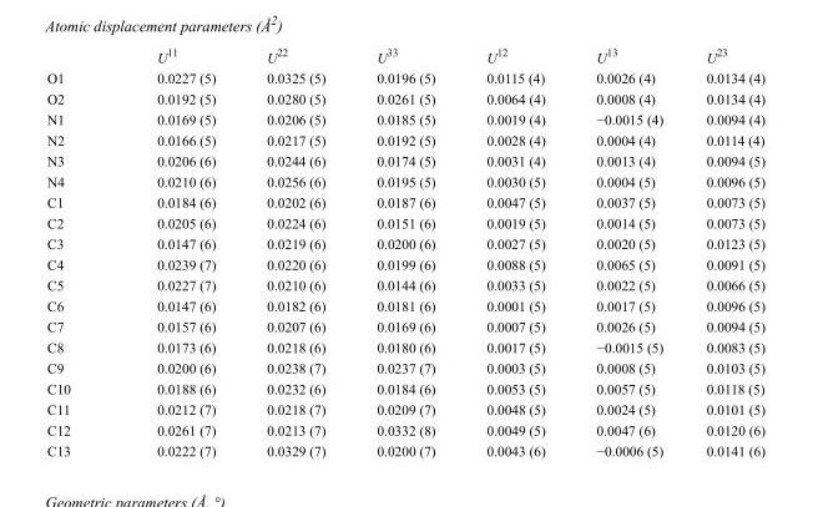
<table><thead><tr><td></td><td>U<sup>11</sup></td><td>U<sup>22</sup></td><td>U<sup>33</sup></td><td>U<sup>12</sup></td><td>U<sup>13</sup></td><td>U<sup>23</sup></td></tr></thead><tbody><tr><td>O1</td><td>0.0227 (5)</td><td>0.0325 (5)</td><td>0.0196 (5)</td><td>0.0115 (4)</td><td>0.0026 (4)</td><td>0.0134 (4)</td></tr><tr><td>O2</td><td>0.0192 (5)</td><td>0.0280 (5)</td><td>0.0261 (5)</td><td>0.0064 (4)</td><td>0.0008 (4)</td><td>0.0134 (4)</td></tr><tr><td>N1</td><td>0.0169 (5)</td><td>0.0206 (5)</td><td>0.0185 (5)</td><td>0.0019 (4)</td><td>−0.0015 (4)</td><td>0.0094 (4)</td></tr><tr><td>N2</td><td>0.0166 (5)</td><td>0.0217 (5)</td><td>0.0192 (5)</td><td>0.0028 (4)</td><td>0.0004 (4)</td><td>0.0114 (4)</td></tr><tr><td>N3</td><td>0.0206 (6)</td><td>0.0244 (6)</td><td>0.0174 (5)</td><td>0.0031 (4)</td><td>0.0013 (4)</td><td>0.0094 (5)</td></tr><tr><td>N4</td><td>0.0210 (6)</td><td>0.0256 (6)</td><td>0.0195 (5)</td><td>0.0030 (5)</td><td>0.0004 (5)</td><td>0.0096 (5)</td></tr><tr><td>C1</td><td>0.0184 (6)</td><td>0.0202 (6)</td><td>0.0187 (6)</td><td>0.0047 (5)</td><td>0.0037 (5)</td><td>0.0073 (5)</td></tr><tr><td>C2</td><td>0.0205 (6)</td><td>0.0224 (6)</td><td>0.0151 (6)</td><td>0.0019 (5)</td><td>0.0014 (5)</td><td>0.0073 (5)</td></tr><tr><td>C3</td><td>0.0147 (6)</td><td>0.0219 (6)</td><td>0.0200 (6)</td><td>0.0027 (5)</td><td>0.0020 (5)</td><td>0.0123 (5)</td></tr><tr><td>C4</td><td>0.0239 (7)</td><td>0.0220 (6)</td><td>0.0199 (6)</td><td>0.0088 (5)</td><td>0.0065 (5)</td><td>0.0091 (5)</td></tr><tr><td>C5</td><td>0.0227 (7)</td><td>0.0210 (6)</td><td>0.0144 (6)</td><td>0.0033 (5)</td><td>0.0022 (5)</td><td>0.0066 (5)</td></tr><tr><td>C6</td><td>0.0147 (6)</td><td>0.0182 (6)</td><td>0.0181 (6)</td><td>0.0001 (5)</td><td>0.0017 (5)</td><td>0.0096 (5)</td></tr><tr><td>C7</td><td>0.0157 (6)</td><td>0.0207 (6)</td><td>0.0169 (6)</td><td>0.0007 (5)</td><td>0.0026 (5)</td><td>0.0094 (5)</td></tr><tr><td>C8</td><td>0.0173 (6)</td><td>0.0218 (6)</td><td>0.0180 (6)</td><td>0.0017 (5)</td><td>−0.0015 (5)</td><td>0.0083 (5)</td></tr><tr><td>C9</td><td>0.0200 (6)</td><td>0.0238 (7)</td><td>0.0237 (7)</td><td>0.0003 (5)</td><td>0.0008 (5)</td><td>0.0103 (5)</td></tr><tr><td>C10</td><td>0.0188 (6)</td><td>0.0232 (6)</td><td>0.0184 (6)</td><td>0.0053 (5)</td><td>0.0057 (5)</td><td>0.0118 (5)</td></tr><tr><td>C11</td><td>0.0212 (7)</td><td>0.0218 (7)</td><td>0.0209 (7)</td><td>0.0048 (5)</td><td>0.0024 (5)</td><td>0.0101 (5)</td></tr><tr><td>C12</td><td>0.0261 (7)</td><td>0.0213 (7)</td><td>0.0332 (8)</td><td>0.0049 (5)</td><td>0.0047 (6)</td><td>0.0120 (6)</td></tr><tr><td>C13</td><td>0.0222 (7)</td><td>0.0329 (7)</td><td>0.0200 (7)</td><td>0.0043 (6)</td><td>−0.0006 (5)</td><td>0.0141 (6)</td></tr></tbody></table>